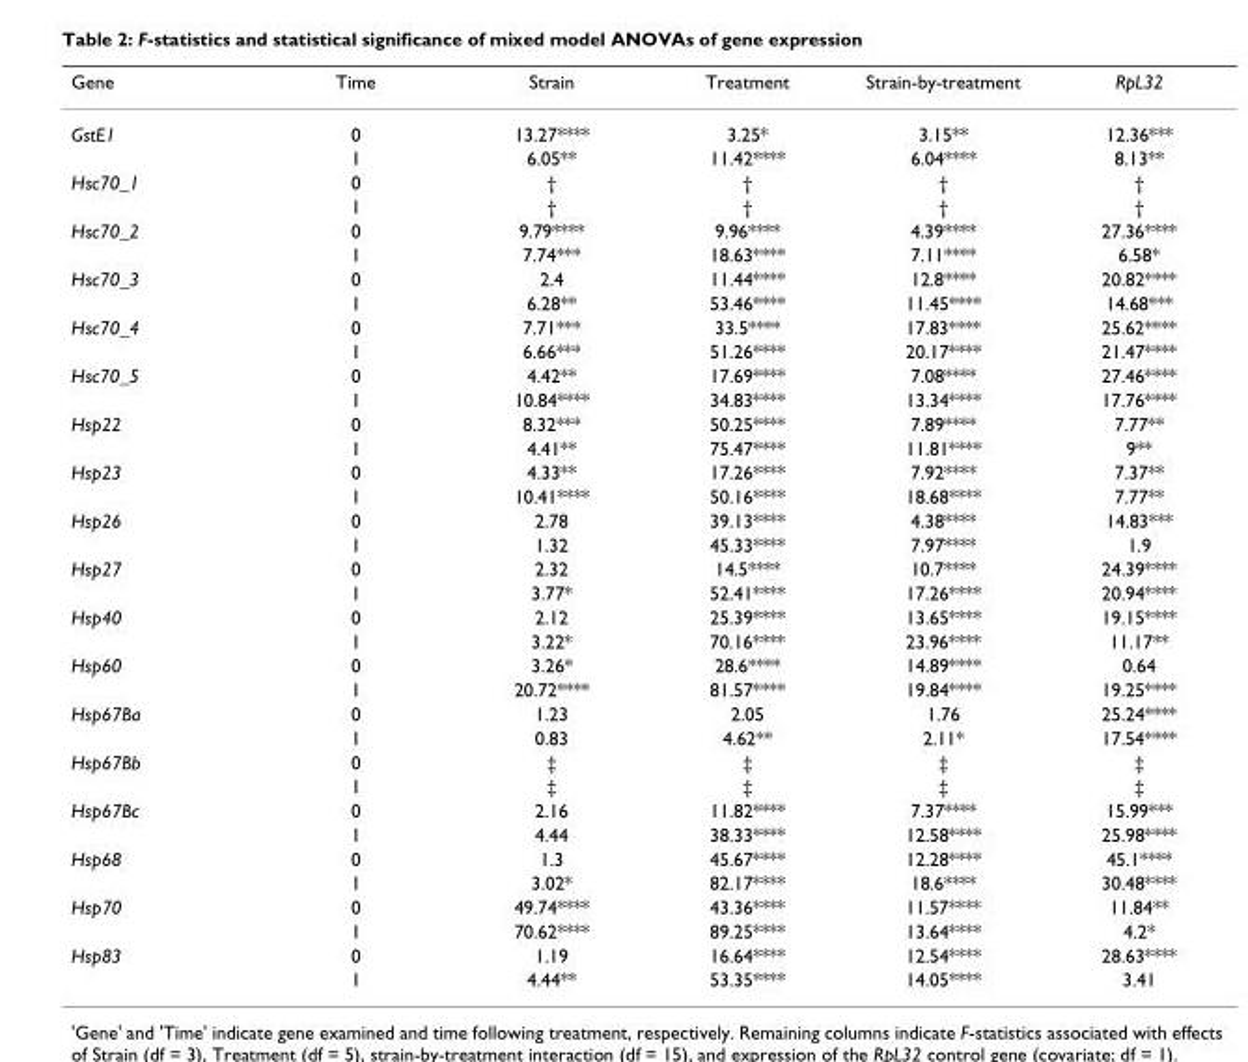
<table><thead><tr><td>Gene</td><td>Time</td><td>Strain</td><td>Treatment</td><td>Strain-by-treatment</td><td>RpL32</td></tr></thead><tbody><tr><td rowspan="2">GstE1</td><td>0</td><td>13.27****</td><td>3.25*</td><td>3.15**</td><td>12.36***</td></tr><tr><td>1</td><td>6.05**</td><td>11.42****</td><td>6.04****</td><td>8.13**</td></tr><tr><td rowspan="2">Hsc70_1</td><td>0</td><td>†</td><td>†</td><td>†</td><td>†</td></tr><tr><td>1</td><td>†</td><td>†</td><td>†</td><td>†</td></tr><tr><td rowspan="2">Hsc70_2</td><td>0</td><td>9.79****</td><td>9.96****</td><td>4.39****</td><td>27.36****</td></tr><tr><td>1</td><td>7.74***</td><td>18.63****</td><td>7.11****</td><td>6.58*</td></tr><tr><td rowspan="2">Hsc70_3</td><td>0</td><td>2.4</td><td>11.44****</td><td>12.8****</td><td>20.82****</td></tr><tr><td>1</td><td>6.28**</td><td>53.46****</td><td>11.45****</td><td>14.68***</td></tr><tr><td rowspan="2">Hsc70_4</td><td>0</td><td>7.71***</td><td>33.5****</td><td>17.83****</td><td>25.62****</td></tr><tr><td>1</td><td>6.66***</td><td>51.26****</td><td>20.17****</td><td>21.47****</td></tr><tr><td rowspan="2">Hsc70_5</td><td>0</td><td>4.42**</td><td>17.69****</td><td>7.08****</td><td>27.46****</td></tr><tr><td>1</td><td>10.84****</td><td>34.83****</td><td>13.34****</td><td>17.76****</td></tr><tr><td rowspan="2">Hsp22</td><td>0</td><td>8.32***</td><td>50.25****</td><td>7.89****</td><td>7.77**</td></tr><tr><td>1</td><td>4.41**</td><td>75.47****</td><td>11.81****</td><td>9**</td></tr><tr><td rowspan="2">Hsp23</td><td>0</td><td>4.33**</td><td>17.26****</td><td>7.92****</td><td>7.37**</td></tr><tr><td>1</td><td>10.41****</td><td>50.16****</td><td>18.68****</td><td>7.77**</td></tr><tr><td rowspan="2">Hsp26</td><td>0</td><td>2.78</td><td>39.13****</td><td>4.38****</td><td>14.83***</td></tr><tr><td>1</td><td>1.32</td><td>45.33****</td><td>7.97****</td><td>1.9</td></tr><tr><td rowspan="2">Hsp27</td><td>0</td><td>2.32</td><td>14.5****</td><td>10.7****</td><td>24.39****</td></tr><tr><td>1</td><td>3.77*</td><td>52.41****</td><td>17.26****</td><td>20.94****</td></tr><tr><td rowspan="2">Hsp40</td><td>0</td><td>2.12</td><td>25.39****</td><td>13.65****</td><td>19.15****</td></tr><tr><td>1</td><td>3.22*</td><td>70.16****</td><td>23.96****</td><td>11.17**</td></tr><tr><td rowspan="2">Hsp60</td><td>0</td><td>3.26*</td><td>28.6****</td><td>14.89****</td><td>0.64</td></tr><tr><td>1</td><td>20.72****</td><td>81.57****</td><td>19.84****</td><td>19.25****</td></tr><tr><td rowspan="2">Hsp67Ba</td><td>0</td><td>1.23</td><td>2.05</td><td>1.76</td><td>25.24****</td></tr><tr><td>1</td><td>0.83</td><td>4.62**</td><td>2.11*</td><td>17.54****</td></tr><tr><td rowspan="2">Hsp67Bb</td><td>0</td><td>‡</td><td>‡</td><td>‡</td><td>‡</td></tr><tr><td>1</td><td>‡</td><td>‡</td><td>‡</td><td>‡</td></tr><tr><td rowspan="2">Hsp67Bc</td><td>0</td><td>2.16</td><td>11.82****</td><td>7.37****</td><td>15.99***</td></tr><tr><td>1</td><td>4.44</td><td>38.33****</td><td>12.58****</td><td>25.98****</td></tr><tr><td rowspan="2">Hsp68</td><td>0</td><td>1.3</td><td>45.67****</td><td>12.28****</td><td>45.1****</td></tr><tr><td>1</td><td>3.02*</td><td>82.17****</td><td>18.6****</td><td>30.48****</td></tr><tr><td rowspan="2">Hsp70</td><td>0</td><td>49.74****</td><td>43.36****</td><td>11.57****</td><td>11.84**</td></tr><tr><td>1</td><td>70.62****</td><td>89.25****</td><td>13.64****</td><td>4.2*</td></tr><tr><td rowspan="2">Hsp83</td><td>0</td><td>1.19</td><td>16.64****</td><td>12.54****</td><td>28.63****</td></tr><tr><td>1</td><td>4.44**</td><td>53.35****</td><td>14.05****</td><td>3.41</td></tr></tbody></table>